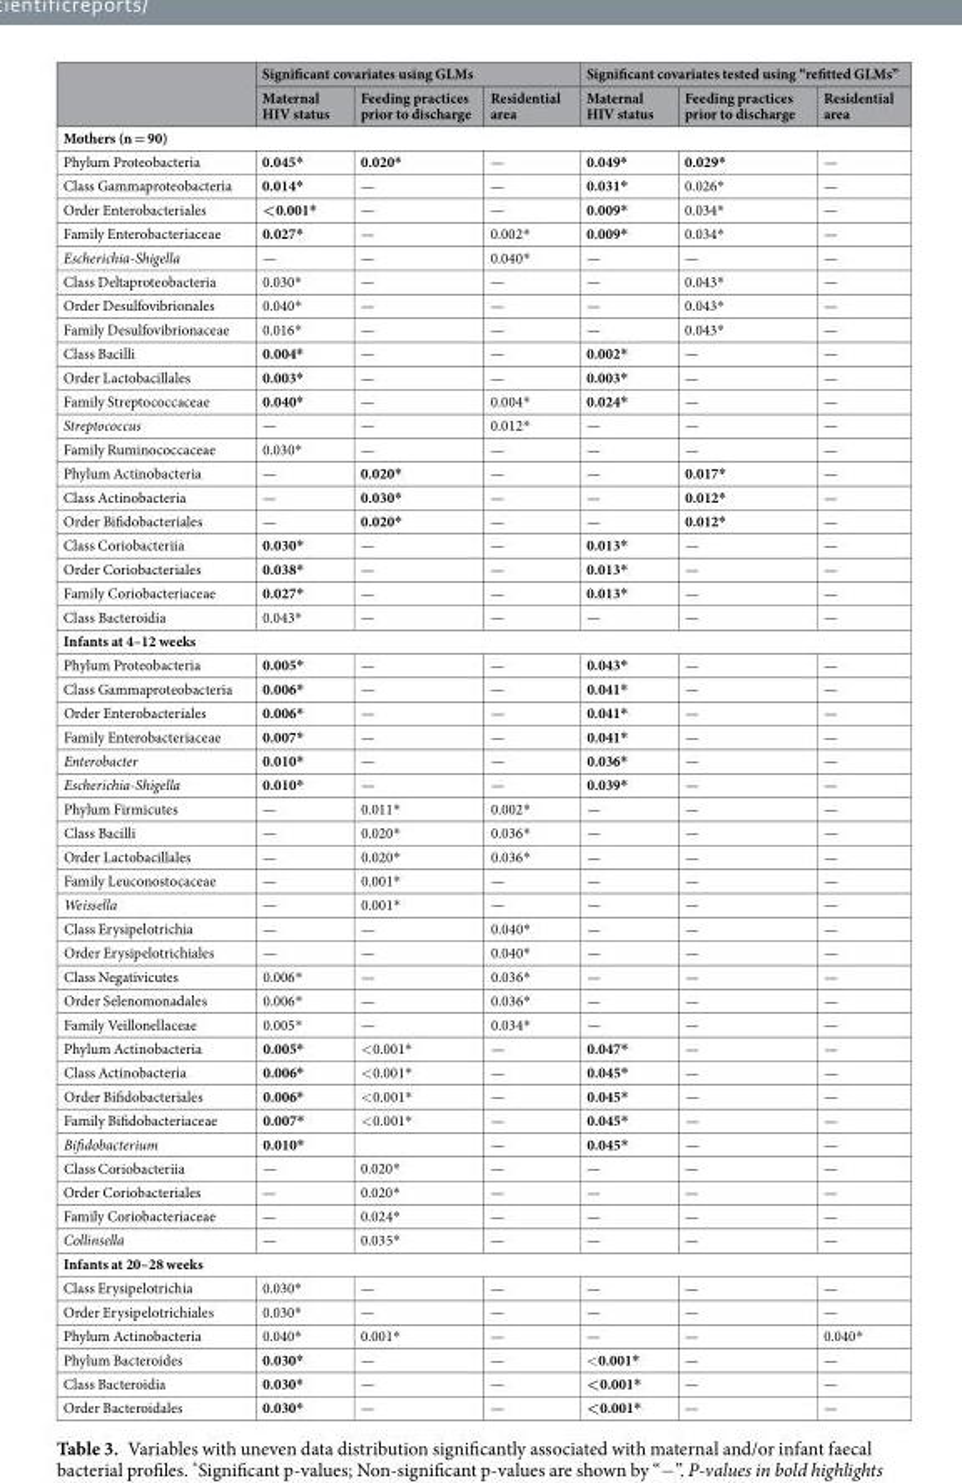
<table><thead><tr><td rowspan="2"></td><td colspan="3">Significant covariates using GLMs</td><td colspan="3">Significant covariates tested using “refitted GLMs”</td></tr><tr><td>Maternal HIV status</td><td>Feeding practices prior to discharge</td><td>Residential area</td><td>Maternal HIV status</td><td>Feeding practices prior to discharge</td><td>Residential area</td></tr></thead><tbody><tr><td colspan="7">Mothers (n = 90)</td></tr><tr><td>Phylum Proteobacteria</td><td>0.045*</td><td>0.020*</td><td>—</td><td>0.049*</td><td>0.029*</td><td>—</td></tr><tr><td>Class Gammaproteobacteria</td><td>0.014*</td><td>—</td><td>—</td><td>0.031*</td><td>0.026*</td><td>—</td></tr><tr><td>Order Enterobacteriales</td><td>&lt;0.001*</td><td>—</td><td>—</td><td>0.009*</td><td>0.034*</td><td>—</td></tr><tr><td>Family Enterobacteriaceae</td><td>0.027*</td><td>—</td><td>0.002*</td><td>0.009*</td><td>0.034*</td><td>—</td></tr><tr><td>Escherichia-Shigella</td><td>—</td><td>—</td><td>0.040*</td><td>—</td><td>—</td><td>—</td></tr><tr><td>Class Deltaproteobacteria</td><td>0.030*</td><td>—</td><td>—</td><td>—</td><td>0.043*</td><td>—</td></tr><tr><td>Order Desulfovibrionales</td><td>0.040*</td><td>—</td><td>—</td><td>—</td><td>0.043*</td><td>—</td></tr><tr><td>Family Desulfovibrionaceae</td><td>0.016*</td><td>—</td><td>—</td><td>—</td><td>0.043*</td><td>—</td></tr><tr><td>Class Bacilli</td><td>0.004*</td><td>—</td><td>—</td><td>0.002*</td><td>—</td><td>—</td></tr><tr><td>Order Lactobacillales</td><td>0.003*</td><td>—</td><td>—</td><td>0.003*</td><td>—</td><td>—</td></tr><tr><td>Family Streptococcaceae</td><td>0.040*</td><td>—</td><td>0.004*</td><td>0.024*</td><td>—</td><td>—</td></tr><tr><td>Streptococcus</td><td>—</td><td>—</td><td>0.012*</td><td>—</td><td>—</td><td>—</td></tr><tr><td>Family Ruminococcaceae</td><td>0.030*</td><td>—</td><td>—</td><td>—</td><td>—</td><td>—</td></tr><tr><td>Phylum Actinobacteria</td><td>—</td><td>0.020*</td><td>—</td><td>—</td><td>0.017*</td><td>—</td></tr><tr><td>Class Actinobacteria</td><td>—</td><td>0.030*</td><td>—</td><td>—</td><td>0.012*</td><td>—</td></tr><tr><td>Order Bifidobacteriales</td><td>—</td><td>0.020*</td><td>—</td><td>—</td><td>0.012*</td><td>—</td></tr><tr><td>Class Coriobacteriia</td><td>0.030*</td><td>—</td><td>—</td><td>0.013*</td><td>—</td><td>—</td></tr><tr><td>Order Coriobacteriales</td><td>0.038*</td><td>—</td><td>—</td><td>0.013*</td><td>—</td><td>—</td></tr><tr><td>Family Coriobacteriaceae</td><td>0.027*</td><td>—</td><td>—</td><td>0.013*</td><td>—</td><td>—</td></tr><tr><td>Class Bacteroidia</td><td>0.043*</td><td>—</td><td>—</td><td>—</td><td>—</td><td>—</td></tr><tr><td colspan="7">Infants at 4–12 weeks</td></tr><tr><td>Phylum Proteobacteria</td><td>0.005*</td><td>—</td><td>—</td><td>0.043*</td><td>—</td><td>—</td></tr><tr><td>Class Gammaproteobacteria</td><td>0.006*</td><td>—</td><td>—</td><td>0.041*</td><td>—</td><td>—</td></tr><tr><td>Order Enterobacteriales</td><td>0.006*</td><td>—</td><td>—</td><td>0.041*</td><td>—</td><td>—</td></tr><tr><td>Family Enterobacteriaceae</td><td>0.007*</td><td>—</td><td>—</td><td>0.041*</td><td>—</td><td>—</td></tr><tr><td>Enterobacter</td><td>0.010*</td><td>—</td><td>—</td><td>0.036*</td><td>—</td><td>—</td></tr><tr><td>Escherichia-Shigella</td><td>0.010*</td><td>—</td><td>—</td><td>0.039*</td><td>—</td><td>—</td></tr><tr><td>Phylum Firmicutes</td><td>—</td><td>0.011*</td><td>0.002*</td><td>—</td><td>—</td><td>—</td></tr><tr><td>Class Bacilli</td><td>—</td><td>0.020*</td><td>0.036*</td><td>—</td><td>—</td><td>—</td></tr><tr><td>Order Lactobacillales</td><td>—</td><td>0.020*</td><td>0.036*</td><td>—</td><td>—</td><td>—</td></tr><tr><td>Family Leuconostocaceae</td><td>—</td><td>0.001*</td><td>—</td><td>—</td><td>—</td><td>—</td></tr><tr><td>Weissella</td><td>—</td><td>0.001*</td><td>—</td><td>—</td><td>—</td><td>—</td></tr><tr><td>Class Erysipelotrichia</td><td>—</td><td>—</td><td>0.040*</td><td>—</td><td>—</td><td>—</td></tr><tr><td>Order Erysipelotrichiales</td><td>—</td><td>—</td><td>0.040*</td><td>—</td><td>—</td><td>—</td></tr><tr><td>Class Negativicutes</td><td>0.006*</td><td>—</td><td>0.036*</td><td>—</td><td>—</td><td>—</td></tr><tr><td>Order Selenomonadales</td><td>0.006*</td><td>—</td><td>0.036*</td><td>—</td><td>—</td><td>—</td></tr><tr><td>Family Veillonellaceae</td><td>0.005*</td><td>—</td><td>0.034*</td><td>—</td><td>—</td><td>—</td></tr><tr><td>Phylum Actinobacteria</td><td>0.005*</td><td>&lt;0.001*</td><td>—</td><td>0.047*</td><td>—</td><td>—</td></tr><tr><td>Class Actinobacteria</td><td>0.006*</td><td>&lt;0.001*</td><td>—</td><td>0.045*</td><td>—</td><td>—</td></tr><tr><td>Order Bifidobacteriales</td><td>0.006*</td><td>&lt;0.001*</td><td>—</td><td>0.045*</td><td>—</td><td>—</td></tr><tr><td>Family Bifidobacteriaceae</td><td>0.007*</td><td>&lt;0.001*</td><td>—</td><td>0.045*</td><td>—</td><td>—</td></tr><tr><td>Bifidobacterium</td><td>0.010*</td><td></td><td>—</td><td>0.045*</td><td>—</td><td>—</td></tr><tr><td>Class Coriobacteriia</td><td>—</td><td>0.020*</td><td>—</td><td>—</td><td>—</td><td>—</td></tr><tr><td>Order Coriobacteriales</td><td>—</td><td>0.020*</td><td>—</td><td>—</td><td>—</td><td>—</td></tr><tr><td>Family Coriobacteriaceae</td><td>—</td><td>0.024*</td><td>—</td><td>—</td><td>—</td><td>—</td></tr><tr><td>Collinsella</td><td>—</td><td>0.035*</td><td>—</td><td>—</td><td>—</td><td>—</td></tr><tr><td colspan="7">Infants at 20–28 weeks</td></tr><tr><td>Class Erysipelotrichia</td><td>0.030*</td><td>—</td><td>—</td><td>—</td><td>—</td><td>—</td></tr><tr><td>Order Erysipelotrichiales</td><td>0.030*</td><td>—</td><td>—</td><td>—</td><td>—</td><td>—</td></tr><tr><td>Phylum Actinobacteria</td><td>0.040*</td><td>0.001*</td><td>—</td><td>—</td><td>—</td><td>0.040*</td></tr><tr><td>Phylum Bacteroides</td><td>0.030*</td><td>—</td><td>—</td><td>&lt;0.001*</td><td>—</td><td>—</td></tr><tr><td>Class Bacteroidia</td><td>0.030*</td><td>—</td><td>—</td><td>&lt;0.001*</td><td>—</td><td>—</td></tr><tr><td>Order Bacteroidales</td><td>0.030*</td><td>—</td><td>—</td><td>&lt;0.001*</td><td>—</td><td>—</td></tr></tbody></table>